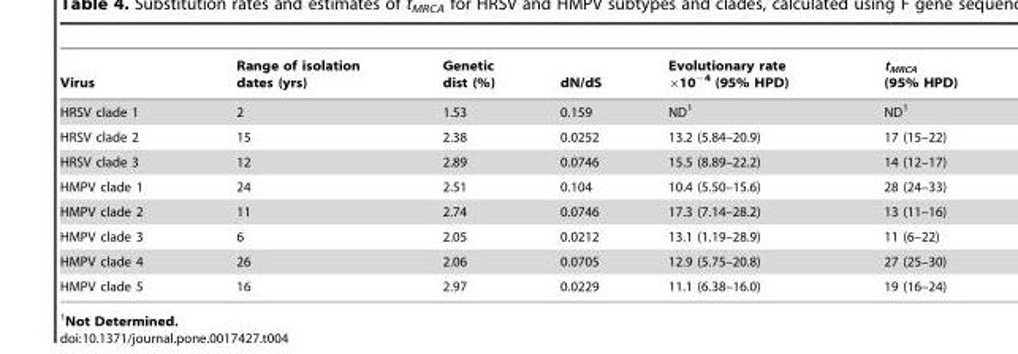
<table><thead><tr><td>Virus</td><td>Range of isolation dates (yrs)</td><td>Genetic dist (%)</td><td>dN/dS</td><td>Evolutionary rate ×10<sup>−4</sup> (95% HPD)</td><td>t<sub>MRCA</sub> (95% HPD)</td></tr></thead><tbody><tr><td>HRSV clade 1</td><td>2</td><td>1.53</td><td>0.159</td><td>ND<sup>1</sup></td><td>ND<sup>1</sup></td></tr><tr><td>HRSV clade 2</td><td>15</td><td>2.38</td><td>0.0252</td><td>13.2 (5.84–20.9)</td><td>17 (15–22)</td></tr><tr><td>HRSV clade 3</td><td>12</td><td>2.89</td><td>0.0746</td><td>15.5 (8.89–22.2)</td><td>14 (12–17)</td></tr><tr><td>HMPV clade 1</td><td>24</td><td>2.51</td><td>0.104</td><td>10.4 (5.50–15.6)</td><td>28 (24–33)</td></tr><tr><td>HMPV clade 2</td><td>11</td><td>2.74</td><td>0.0746</td><td>17.3 (7.14–28.2)</td><td>13 (11–16)</td></tr><tr><td>HMPV clade 3</td><td>6</td><td>2.05</td><td>0.0212</td><td>13.1 (1.19–28.9)</td><td>11 (6–22)</td></tr><tr><td>HMPV clade 4</td><td>26</td><td>2.06</td><td>0.0705</td><td>12.9 (5.75–20.8)</td><td>27 (25–30)</td></tr><tr><td>HMPV clade 5</td><td>16</td><td>2.97</td><td>0.0229</td><td>11.1 (6.38–16.0)</td><td>19 (16–24)</td></tr></tbody></table>